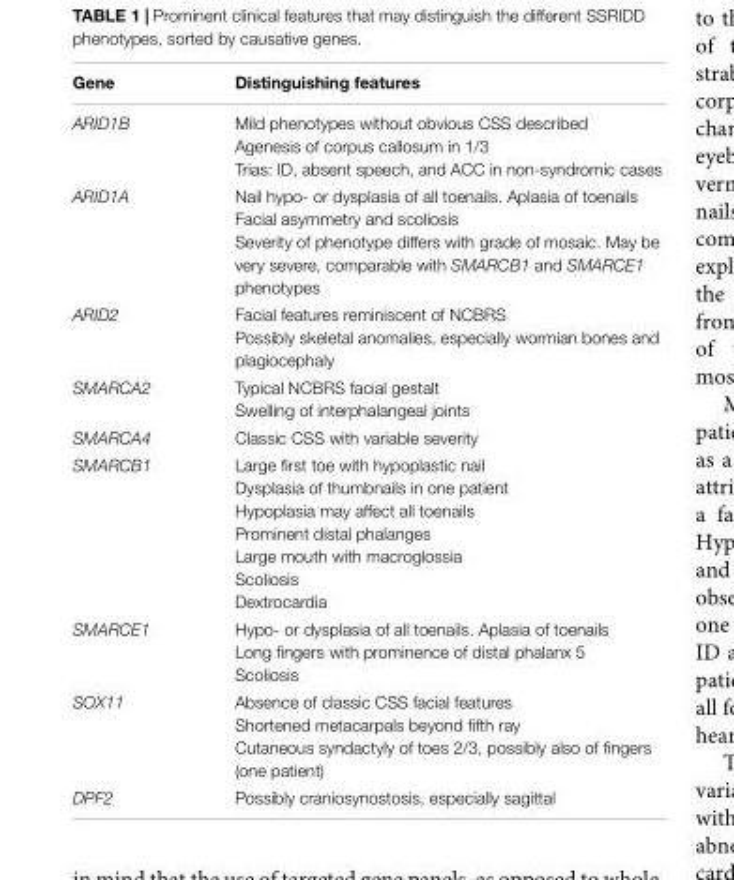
<table><thead><tr><td>Gene</td><td>Distinguishing features</td></tr></thead><tbody><tr><td rowspan="3">ARID1B</td><td>Mild phenotypes without obvious CSS described</td></tr><tr><td>Agenesis of corpus callosum in 1/3</td></tr><tr><td>Trias: ID, absent speech, and ACC in non-syndromic cases</td></tr><tr><td rowspan="3">ARID1A</td><td>Nail hypo- or dysplasia of all toenails. Aplasia of toenails</td></tr><tr><td>Facial asymmetry and scoliosis</td></tr><tr><td>Severity of phenotype differs with grade of mosaic. May be very severe, comparable with SMARCB1 and SMARCE1 phenotypes</td></tr><tr><td rowspan="2">ARID2</td><td>Facial features reminiscent of NCBRS</td></tr><tr><td>Possibly skeletal anomalies, especially wormian bones and plagiocephaly</td></tr><tr><td rowspan="2">SMARCA2</td><td>Typical NCBRS facial gestalt</td></tr><tr><td>Swelling of interphalangeal joints</td></tr><tr><td>SMARCA4</td><td>Classic CSS with variable severity</td></tr><tr><td rowspan="7">SMARCB1</td><td>Large first toe with hypoplastic nail</td></tr><tr><td>Dysplasia of thumbnails in one patient</td></tr><tr><td>Hypoplasia may affect all toenails</td></tr><tr><td>Prominent distal phalanges</td></tr><tr><td>Large mouth with macroglossia</td></tr><tr><td>Scoliosis</td></tr><tr><td>Dextrocardia</td></tr><tr><td rowspan="3">SMARCE1</td><td>Hypo- or dysplasia of all toenails. Aplasia of toenails</td></tr><tr><td>Long fingers with prominence of distal phalanx 5</td></tr><tr><td>Scoliosis</td></tr><tr><td rowspan="3">SOX11</td><td>Absence of classic CSS facial features</td></tr><tr><td>Shortened metacarpals beyond fifth ray</td></tr><tr><td>Cutaneous syndactyly of toes 2/3, possibly also of fingers (one patient)</td></tr><tr><td>DPF2</td><td>Possibly craniosynostosis, especially sagittal</td></tr></tbody></table>